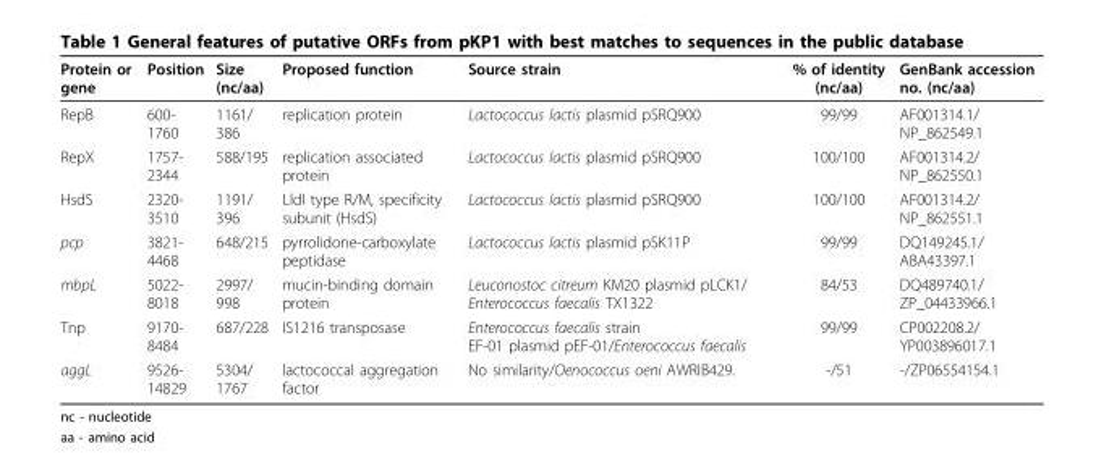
<table><thead><tr><td>Protein or gene</td><td>Position</td><td>Size (nc/aa)</td><td>Proposed function</td><td>Source strain</td><td>% of identity (nc/aa)</td><td>GenBank accession no. (nc/aa)</td></tr></thead><tbody><tr><td>RepB</td><td>600- 1760</td><td>1161/ 386</td><td>replication protein</td><td>Lactococcus lactis plasmid pSRQ900</td><td>99/99</td><td>AF001314.1/ NP_862549.1</td></tr><tr><td>RepX</td><td>1757- 2344</td><td>588/195</td><td>replication associated protein</td><td>Lactococcus lactis plasmid pSRQ900</td><td>100/100</td><td>AF001314.2/ NP_862550.1</td></tr><tr><td>HsdS</td><td>2320- 3510</td><td>1191/ 396</td><td>LldI type R/M, specificity subunit (HsdS)</td><td>Lactococcus lactis plasmid pSRQ900</td><td>100/100</td><td>AF001314.2/ NP_862551.1</td></tr><tr><td>pcp</td><td>3821- 4468</td><td>648/215</td><td>pyrrolidone-carboxylate peptidase</td><td>Lactococcus lactis plasmid pSK11P</td><td>99/99</td><td>DQ149245.1/ ABA43397.1</td></tr><tr><td>mbpL</td><td>5022- 8018</td><td>2997/ 998</td><td>mucin-binding domain protein</td><td>Leuconostoc citreum KM20 plasmid pLCK1/ Enterococcus faecalis TX1322</td><td>84/53</td><td>DQ489740.1/ ZP_04433966.1</td></tr><tr><td>Tnp</td><td>9170- 8484</td><td>687/228</td><td>IS1216 transposase</td><td>Enterococcus faecalis strain EF-01 plasmid pEF-01/Enterococcus faecalis</td><td>99/99</td><td>CP002208.2/ YP003896017.1</td></tr><tr><td>aggL</td><td>9526- 14829</td><td>5304/ 1767</td><td>lactococcal aggregation factor</td><td>No similarity/Oenococcus oeni AWRIB429.</td><td>-/51</td><td>-/ZP06554154.1</td></tr></tbody></table>